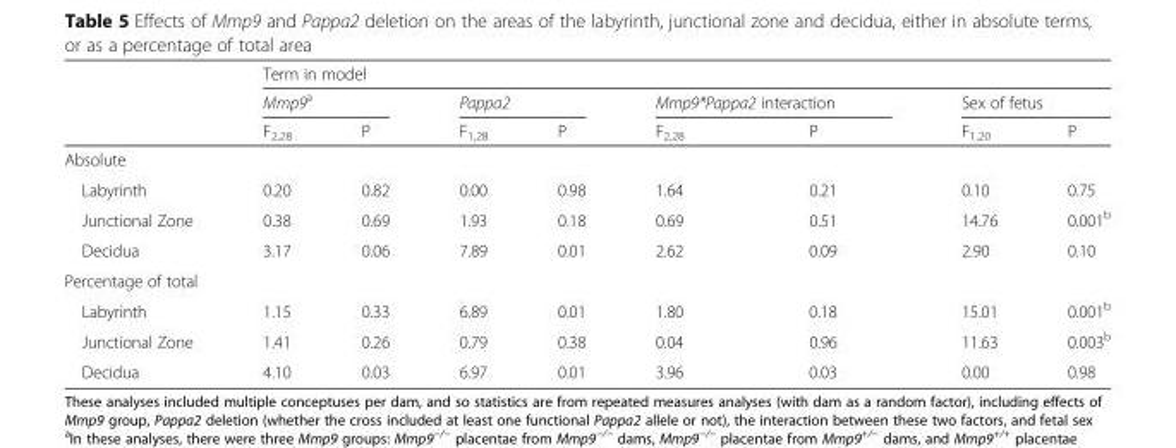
<table><thead><tr><td rowspan="3"></td><td colspan="8">Term in model</td></tr><tr><td colspan="2">Mmp9<sup>a</sup></td><td colspan="2">Pappa2</td><td colspan="2">Mmp9*Pappa2 interaction</td><td colspan="2">Sex of fetus</td></tr><tr><td>F<sub>2,28</sub></td><td>P</td><td>F<sub>1,28</sub></td><td>P</td><td>F<sub>2,28</sub></td><td>P</td><td>F<sub>1,20</sub></td><td>P</td></tr></thead><tbody><tr><td colspan="9">Absolute</td></tr><tr><td>Labyrinth</td><td>0.20</td><td>0.82</td><td>0.00</td><td>0.98</td><td>1.64</td><td>0.21</td><td>0.10</td><td>0.75</td></tr><tr><td>Junctional Zone</td><td>0.38</td><td>0.69</td><td>1.93</td><td>0.18</td><td>0.69</td><td>0.51</td><td>14.76</td><td>0.001<sup>b</sup></td></tr><tr><td>Decidua</td><td>3.17</td><td>0.06</td><td>7.89</td><td>0.01</td><td>2.62</td><td>0.09</td><td>2.90</td><td>0.10</td></tr><tr><td colspan="9">Percentage of total</td></tr><tr><td>Labyrinth</td><td>1.15</td><td>0.33</td><td>6.89</td><td>0.01</td><td>1.80</td><td>0.18</td><td>15.01</td><td>0.001<sup>b</sup></td></tr><tr><td>Junctional Zone</td><td>1.41</td><td>0.26</td><td>0.79</td><td>0.38</td><td>0.04</td><td>0.96</td><td>11.63</td><td>0.003<sup>b</sup></td></tr><tr><td>Decidua</td><td>4.10</td><td>0.03</td><td>6.97</td><td>0.01</td><td>3.96</td><td>0.03</td><td>0.00</td><td>0.98</td></tr></tbody></table>